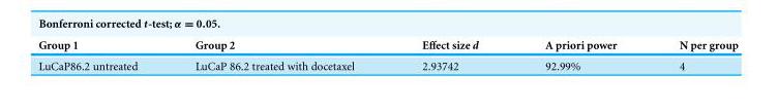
<table><thead><tr><td>Group 1</td><td>Group 2</td><td>Effect size d</td><td>A priori power</td><td>N per group</td></tr></thead><tbody><tr><td>LuCaP86.2 untreated</td><td>LuCaP 86.2 treated with docetaxel</td><td>2.93742</td><td>92.99%</td><td>4</td></tr></tbody></table>